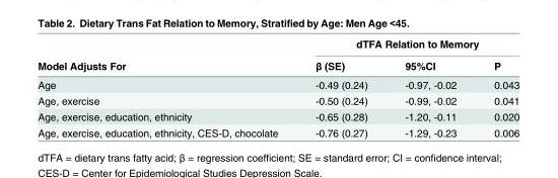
<table><thead><tr><td rowspan="2">Model Adjusts For</td><td colspan="3">dTFA Relation to Memory</td></tr><tr><td>β (SE)</td><td>95%CI</td><td>P</td></tr></thead><tbody><tr><td>Age</td><td>-0.49 (0.24)</td><td>-0.97, -0.02</td><td>0.043</td></tr><tr><td>Age, exercise</td><td>-0.50 (0.24)</td><td>-0.99, -0.02</td><td>0.041</td></tr><tr><td>Age, exercise, education, ethnicity</td><td>-0.65 (0.28)</td><td>-1.20, -0.11</td><td>0.020</td></tr><tr><td>Age, exercise, education, ethnicity, CES-D, chocolate</td><td>-0.76 (0.27)</td><td>-1.29, -0.23</td><td>0.006</td></tr></tbody></table>